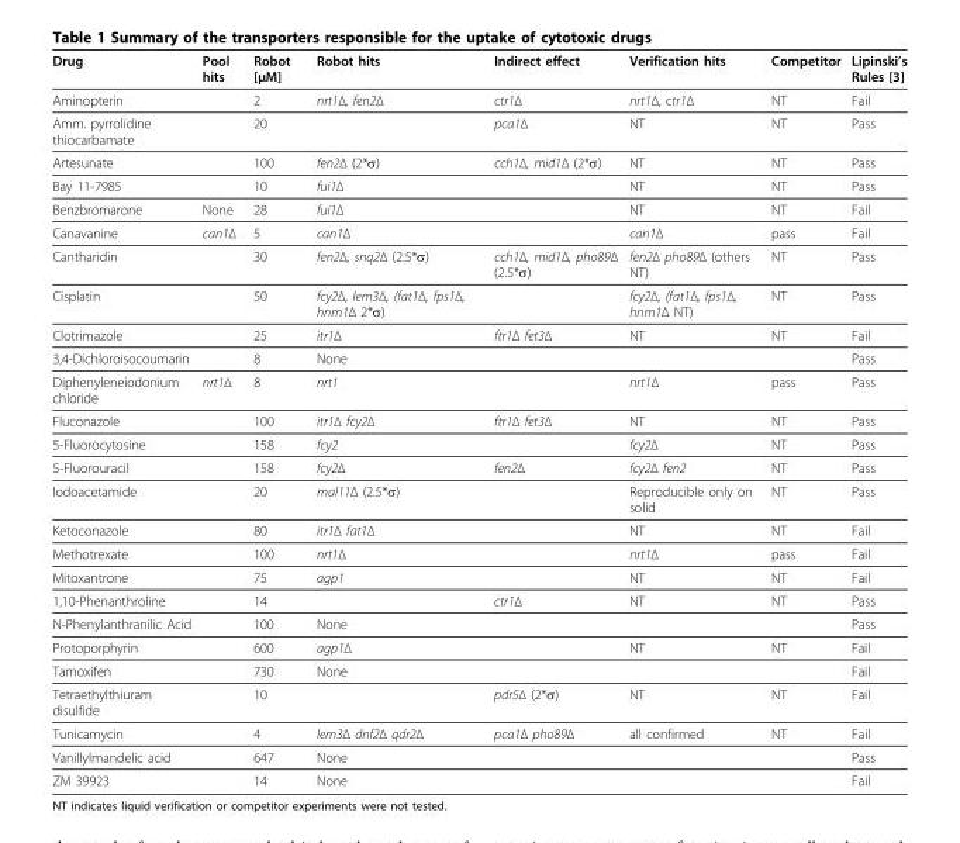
<table><thead><tr><td>Drug</td><td>Pool hits</td><td>Robot [μM]</td><td>Robot hits</td><td>Indirect effect</td><td>Verification hits</td><td>Competitor</td><td>Lipinski’s Rules [3]</td></tr></thead><tbody><tr><td>Aminopterin</td><td></td><td>2</td><td>nrt1Δ, fen2Δ</td><td>ctr1Δ</td><td>nrt1Δ, ctr1Δ</td><td>NT</td><td>Fail</td></tr><tr><td>Amm. pyrrolidine thiocarbamate</td><td></td><td>20</td><td></td><td>pca1Δ</td><td>NT</td><td>NT</td><td>Pass</td></tr><tr><td>Artesunate</td><td></td><td>100</td><td>fen2Δ (2*σ)</td><td>cch1Δ, mid1Δ (2*σ)</td><td>NT</td><td>NT</td><td>Pass</td></tr><tr><td>Bay 11-7985</td><td></td><td>10</td><td>fui1Δ</td><td></td><td>NT</td><td>NT</td><td>Pass</td></tr><tr><td>Benzbromarone</td><td>None</td><td>28</td><td>fui1Δ</td><td></td><td>NT</td><td>NT</td><td>Fail</td></tr><tr><td>Canavanine</td><td>can1Δ</td><td>5</td><td>can1Δ</td><td></td><td>can1Δ</td><td>pass</td><td>Fail</td></tr><tr><td>Cantharidin</td><td></td><td>30</td><td>fen2Δ, snq2Δ (2.5*σ)</td><td>cch1Δ, mid1Δ, pho89Δ (2.5*σ)</td><td>fen2Δ pho89Δ (others NT)</td><td>NT</td><td>Pass</td></tr><tr><td>Cisplatin</td><td></td><td>50</td><td>fcy2Δ, lem3Δ, (fat1Δ, fps1Δ, hnm1Δ 2*σ)</td><td></td><td>fcy2Δ, (fat1Δ, fps1Δ, hnm1Δ NT)</td><td>NT</td><td>Pass</td></tr><tr><td>Clotrimazole</td><td></td><td>25</td><td>itr1Δ</td><td>ftr1Δ fet3Δ</td><td>NT</td><td>NT</td><td>Fail</td></tr><tr><td>3,4-Dichloroisocoumarin</td><td></td><td>8</td><td>None</td><td></td><td></td><td></td><td>Pass</td></tr><tr><td>Diphenyleneiodonium chloride</td><td>nrt1Δ</td><td>8</td><td>nrt1</td><td></td><td>nrt1Δ</td><td>pass</td><td>Pass</td></tr><tr><td>Fluconazole</td><td></td><td>100</td><td>itr1Δ fcy2Δ</td><td>ftr1Δ fet3Δ</td><td>NT</td><td>NT</td><td>Pass</td></tr><tr><td>5-Fluorocytosine</td><td></td><td>158</td><td>fcy2</td><td></td><td>fcy2Δ</td><td>NT</td><td>Pass</td></tr><tr><td>5-Fluorouracil</td><td></td><td>158</td><td>fcy2Δ</td><td>fen2Δ</td><td>fcy2Δ fen2</td><td>NT</td><td>Pass</td></tr><tr><td>Iodoacetamide</td><td></td><td>20</td><td>mal11Δ (2.5*σ)</td><td></td><td>Reproducible only on solid</td><td>NT</td><td>Pass</td></tr><tr><td>Ketoconazole</td><td></td><td>80</td><td>itr1Δ fat1Δ</td><td></td><td>NT</td><td>NT</td><td>Fail</td></tr><tr><td>Methotrexate</td><td></td><td>100</td><td>nrt1Δ</td><td></td><td>nrt1Δ</td><td>pass</td><td>Fail</td></tr><tr><td>Mitoxantrone</td><td></td><td>75</td><td>agp1</td><td></td><td>NT</td><td>NT</td><td>Fail</td></tr><tr><td>1,10-Phenanthroline</td><td></td><td>14</td><td></td><td>ctr1Δ</td><td>NT</td><td>NT</td><td>Pass</td></tr><tr><td>N-Phenylanthranilic Acid</td><td></td><td>100</td><td>None</td><td></td><td></td><td></td><td>Pass</td></tr><tr><td>Protoporphyrin</td><td></td><td>600</td><td>agp1Δ</td><td></td><td>NT</td><td>NT</td><td>Fail</td></tr><tr><td>Tamoxifen</td><td></td><td>730</td><td>None</td><td></td><td></td><td></td><td>Fail</td></tr><tr><td>Tetraethylthiuram disulfide</td><td></td><td>10</td><td></td><td>pdr5Δ (2*σ)</td><td>NT</td><td>NT</td><td>Fail</td></tr><tr><td>Tunicamycin</td><td></td><td>4</td><td>lem3Δ dnf2Δ qdr2Δ</td><td>pca1Δ pho89Δ</td><td>all confirmed</td><td>NT</td><td>Fail</td></tr><tr><td>Vanillylmandelic acid</td><td></td><td>647</td><td>None</td><td></td><td></td><td></td><td>Pass</td></tr><tr><td>ZM 39923</td><td></td><td>14</td><td>None</td><td></td><td></td><td></td><td>Fail</td></tr></tbody></table>